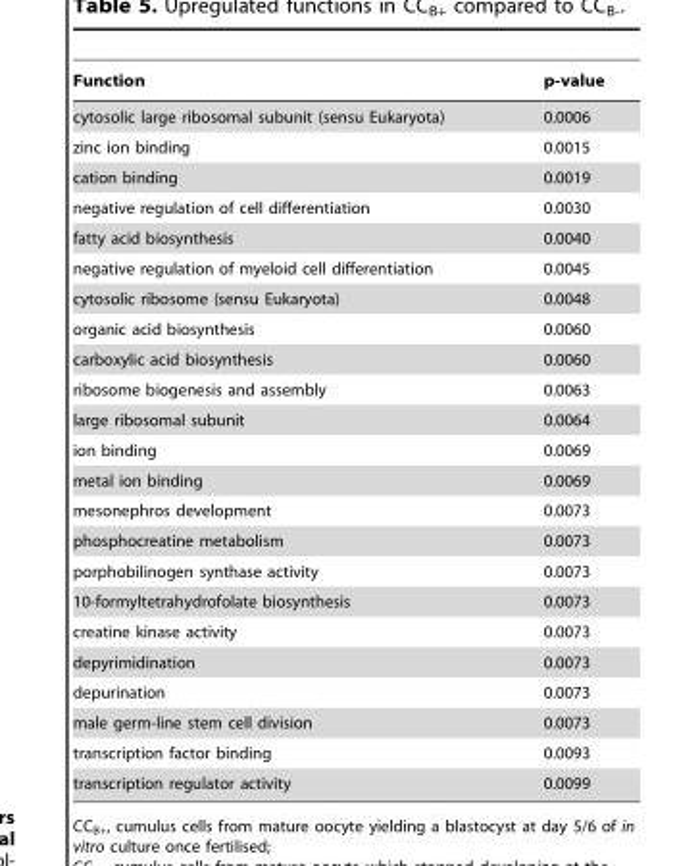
<table><thead><tr><td>Function</td><td>p-value</td></tr></thead><tbody><tr><td>cytosolic large ribosomal subunit (sensu Eukaryota)</td><td>0.0006</td></tr><tr><td>zinc ion binding</td><td>0.0015</td></tr><tr><td>cation binding</td><td>0.0019</td></tr><tr><td>negative regulation of cell differentiation</td><td>0.0030</td></tr><tr><td>fatty acid biosynthesis</td><td>0.0040</td></tr><tr><td>negative regulation of myeloid cell differentiation</td><td>0.0045</td></tr><tr><td>cytosolic ribosome (sensu Eukaryota)</td><td>0.0048</td></tr><tr><td>organic acid biosynthesis</td><td>0.0060</td></tr><tr><td>carboxylic acid biosynthesis</td><td>0.0060</td></tr><tr><td>ribosome biogenesis and assembly</td><td>0.0063</td></tr><tr><td>large ribosomal subunit</td><td>0.0064</td></tr><tr><td>ion binding</td><td>0.0069</td></tr><tr><td>metal ion binding</td><td>0.0069</td></tr><tr><td>mesonephros development</td><td>0.0073</td></tr><tr><td>phosphocreatine metabolism</td><td>0.0073</td></tr><tr><td>porphobilinogen synthase activity</td><td>0.0073</td></tr><tr><td>10-formyltetrahydrofolate biosynthesis</td><td>0.0073</td></tr><tr><td>creatine kinase activity</td><td>0.0073</td></tr><tr><td>depyrimidination</td><td>0.0073</td></tr><tr><td>depurination</td><td>0.0073</td></tr><tr><td>male germ-line stem cell division</td><td>0.0073</td></tr><tr><td>transcription factor binding</td><td>0.0093</td></tr><tr><td>transcription regulator activity</td><td>0.0099</td></tr></tbody></table>